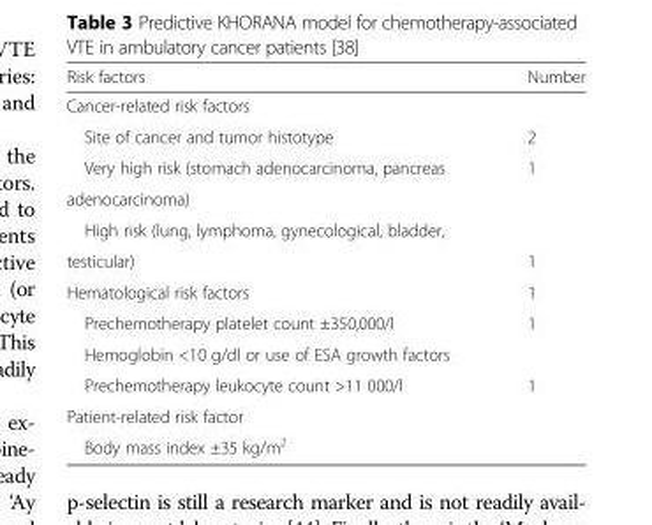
<table><thead><tr><td>Risk factors</td><td>Number</td></tr></thead><tbody><tr><td colspan="2">Cancer-related risk factors</td></tr><tr><td>Site of cancer and tumor histotype</td><td>2</td></tr><tr><td>Very high risk (stomach adenocarcinoma, pancreas</td><td>1</td></tr><tr><td colspan="2">adenocarcinoma)</td></tr><tr><td colspan="2">High risk (lung, lymphoma, gynecological, bladder,</td></tr><tr><td>testicular)</td><td>1</td></tr><tr><td>Hematological risk factors</td><td>1</td></tr><tr><td>Prechemotherapy platelet count ±350,000/l</td><td>1</td></tr><tr><td colspan="2">Hemoglobin &lt;10 g/dl or use of ESA growth factors</td></tr><tr><td>Prechemotherapy leukocyte count &gt;11 000/l</td><td>1</td></tr><tr><td colspan="2">Patient-related risk factor</td></tr><tr><td>Body mass index ±35 kg/m<sup>2</sup></td><td></td></tr></tbody></table>